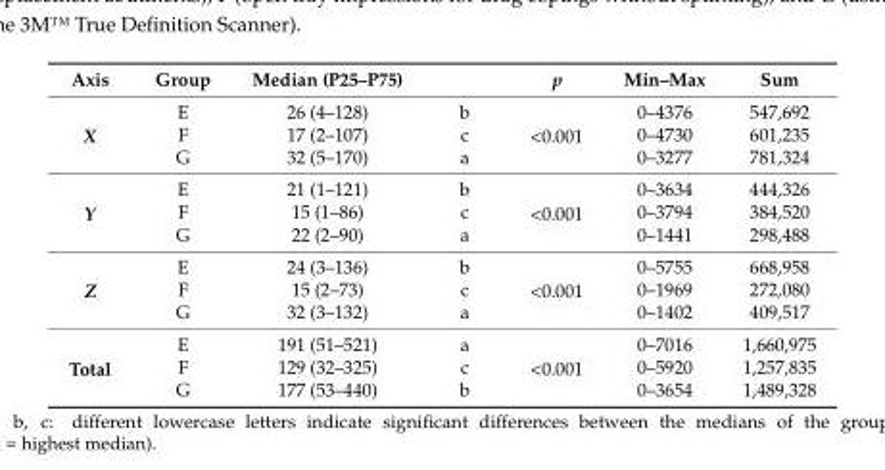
<table><thead><tr><td>Axis</td><td>Group</td><td>Median (P25–P75)</td><td></td><td>p</td><td>Min–Max</td><td>Sum</td></tr></thead><tbody><tr><td rowspan="3">X</td><td>E</td><td>26 (4–128)</td><td>b</td><td rowspan="3">&lt;0.001</td><td>0–4376</td><td>547,692</td></tr><tr><td>F</td><td>17 (2–107)</td><td>c</td><td>0–4730</td><td>601,235</td></tr><tr><td>G</td><td>32 (5–170)</td><td>a</td><td>0–3277</td><td>781,324</td></tr><tr><td rowspan="3">Y</td><td>E</td><td>21 (1–121)</td><td>b</td><td rowspan="3">&lt;0.001</td><td>0–3634</td><td>444,326</td></tr><tr><td>F</td><td>15 (1–86)</td><td>c</td><td>0–3794</td><td>384,520</td></tr><tr><td>G</td><td>22 (2–90)</td><td>a</td><td>0–1441</td><td>298,488</td></tr><tr><td rowspan="3">Z</td><td>E</td><td>24 (3–136)</td><td>b</td><td rowspan="3">&lt;0.001</td><td>0–5755</td><td>668,958</td></tr><tr><td>F</td><td>15 (2–73)</td><td>c</td><td>0–1969</td><td>272,080</td></tr><tr><td>G</td><td>32 (3–132)</td><td>a</td><td>0–1402</td><td>409,517</td></tr><tr><td rowspan="3">Total</td><td>E</td><td>191 (51–521)</td><td>a</td><td rowspan="3">&lt;0.001</td><td>0–7016</td><td>1,660,975</td></tr><tr><td>F</td><td>129 (32–325)</td><td>c</td><td>0–5920</td><td>1,257,835</td></tr><tr><td>G</td><td>177 (53–440)</td><td>b</td><td>0–3654</td><td>1,489,328</td></tr></tbody></table>